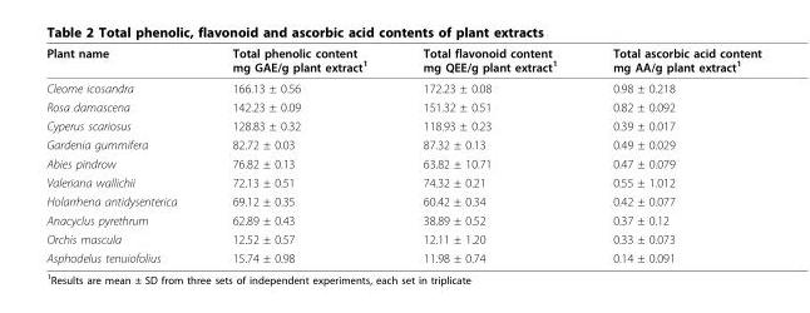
<table><thead><tr><td>Plant name</td><td>Total phenolic content mg GAE/g plant extract<sup>1</sup></td><td>Total flavonoid content mg QEE/g plant extract<sup>1</sup></td><td>Total ascorbic acid content mg AA/g plant extract<sup>1</sup></td></tr></thead><tbody><tr><td>Cleome icosandra</td><td>166.13 ± 0.56</td><td>172.23 ± 0.08</td><td>0.98 ± 0.218</td></tr><tr><td>Rosa damascena</td><td>142.23 ± 0.09</td><td>151.32 ± 0.51</td><td>0.82 ± 0.092</td></tr><tr><td>Cyperus scariosus</td><td>128.83 ± 0.32</td><td>118.93 ± 0.23</td><td>0.39 ± 0.017</td></tr><tr><td>Gardenia gummifera</td><td>82.72 ± 0.03</td><td>87.32 ± 0.13</td><td>0.49 ± 0.029</td></tr><tr><td>Abies pindrow</td><td>76.82 ± 0.13</td><td>63.82 ± 10.71</td><td>0.47 ± 0.079</td></tr><tr><td>Valeriana wallichii</td><td>72.13 ± 0.51</td><td>74.32 ± 0.21</td><td>0.55 ± 1.012</td></tr><tr><td>Holarrhena antidysenterica</td><td>69.12 ± 0.35</td><td>60.42 ± 0.34</td><td>0.42 ± 0.077</td></tr><tr><td>Anacyclus pyrethrum</td><td>62.89 ± 0.43</td><td>38.89 ± 0.52</td><td>0.37 ± 0.12</td></tr><tr><td>Orchis mascula</td><td>12.52 ± 0.57</td><td>12.11 ± 1.20</td><td>0.33 ± 0.073</td></tr><tr><td>Asphodelus tenuiofolius</td><td>15.74 ± 0.98</td><td>11.98 ± 0.74</td><td>0.14 ± 0.091</td></tr></tbody></table>